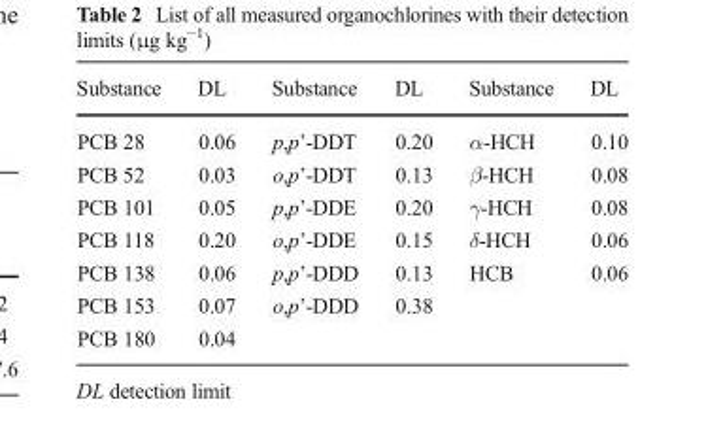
<table><thead><tr><td>Substance</td><td>DL</td><td>Substance</td><td>DL</td><td>Substance</td><td>DL</td></tr></thead><tbody><tr><td>PCB 28</td><td>0.06</td><td>p,p’-DDT</td><td>0.20</td><td>α-HCH</td><td>0.10</td></tr><tr><td>PCB 52</td><td>0.03</td><td>o,p’-DDT</td><td>0.13</td><td>β-HCH</td><td>0.08</td></tr><tr><td>PCB 101</td><td>0.05</td><td>p,p’-DDE</td><td>0.20</td><td>γ-HCH</td><td>0.08</td></tr><tr><td>PCB 118</td><td>0.20</td><td>o,p’-DDE</td><td>0.15</td><td>δ-HCH</td><td>0.06</td></tr><tr><td>PCB 138</td><td>0.06</td><td>p,p’-DDD</td><td>0.13</td><td>HCB</td><td>0.06</td></tr><tr><td>PCB 153</td><td>0.07</td><td>o,p’-DDD</td><td>0.38</td><td></td><td></td></tr><tr><td>PCB 180</td><td>0.04</td><td></td><td></td><td></td><td></td></tr></tbody></table>